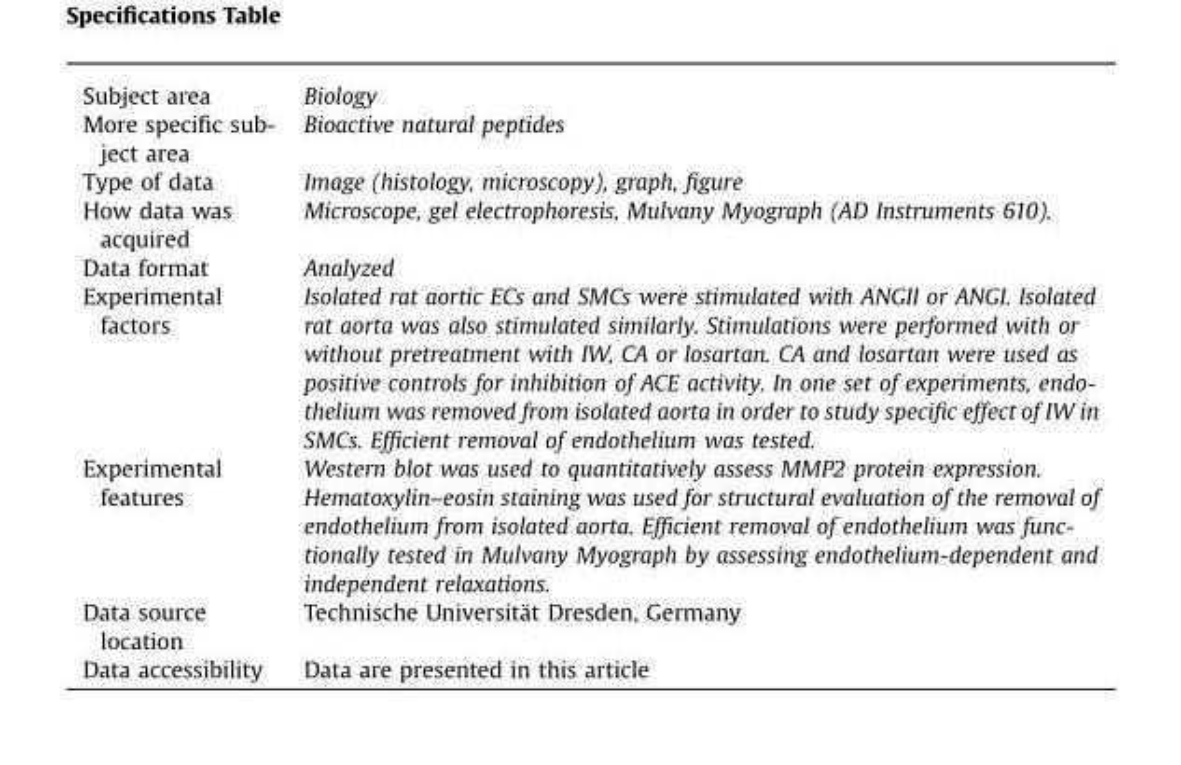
<table><tbody><tr><td>Subject area</td><td>Biology</td></tr><tr><td>More specific sub- ject area</td><td>Bioactive natural peptides</td></tr><tr><td>Type of data</td><td>Image (histology, microscopy), graph, figure</td></tr><tr><td>How data was acquired</td><td>Microscope, gel electrophoresis, Mulvany Myograph (AD Instruments 610).</td></tr><tr><td>Data format</td><td>Analyzed</td></tr><tr><td>Experimental factors</td><td>Isolated rat aortic ECs and SMCs were stimulated with ANGII or ANGI. Isolated rat aorta was also stimulated similarly. Stimulations were performed with or without pretreatment with IW, CA or losartan. CA and losartan were used as positive controls for inhibition of ACE activity. In one set of experiments, endo- thelium was removed from isolated aorta in order to study specific effect of IW in SMCs. Efficient removal of endothelium was tested.</td></tr><tr><td>Experimental features</td><td>Western blot was used to quantitatively assess MMP2 protein expression. Hematoxylin–eosin staining was used for structural evaluation of the removal of endothelium from isolated aorta. Efficient removal of endothelium was func- tionally tested in Mulvany Myograph by assessing endothelium-dependent and independent relaxations.</td></tr><tr><td>Data source location</td><td>Technische Universität Dresden, Germany</td></tr><tr><td>Data accessibility</td><td>Data are presented in this article</td></tr></tbody></table>